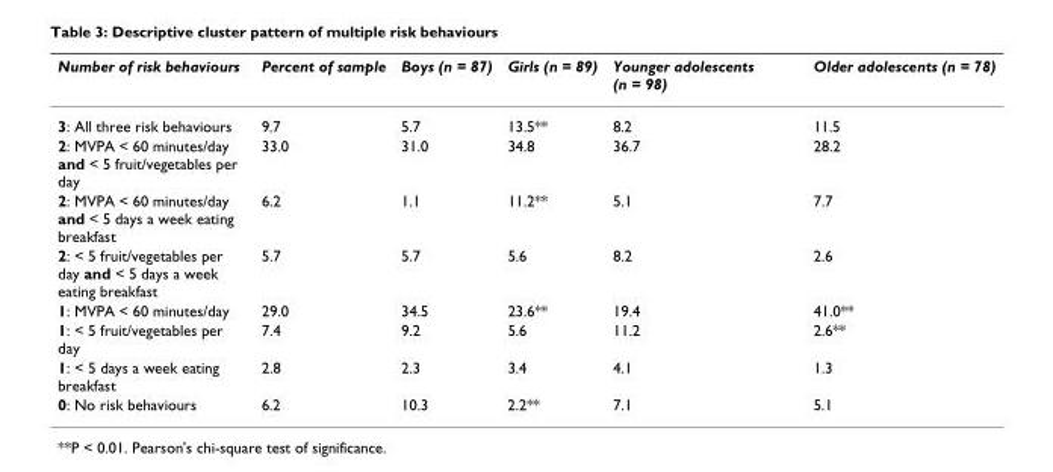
<table><thead><tr><td>Number of risk behaviours</td><td>Percent of sample</td><td>Boys (n = 87)</td><td>Girls (n = 89)</td><td>Younger adolescents (n = 98)</td><td>Older adolescents (n = 78)</td></tr></thead><tbody><tr><td>3: All three risk behaviours</td><td>9.7</td><td>5.7</td><td>13.5**</td><td>8.2</td><td>11.5</td></tr><tr><td>2: MVPA &lt; 60 minutes/day and &lt; 5 fruit/vegetables per day</td><td>33.0</td><td>31.0</td><td>34.8</td><td>36.7</td><td>28.2</td></tr><tr><td>2: MVPA &lt; 60 minutes/day and &lt; 5 days a week eating breakfast</td><td>6.2</td><td>1.1</td><td>11.2**</td><td>5.1</td><td>7.7</td></tr><tr><td>2: &lt; 5 fruit/vegetables per day and &lt; 5 days a week eating breakfast</td><td>5.7</td><td>5.7</td><td>5.6</td><td>8.2</td><td>2.6</td></tr><tr><td>1: MVPA &lt; 60 minutes/day</td><td>29.0</td><td>34.5</td><td>23.6**</td><td>19.4</td><td>41.0**</td></tr><tr><td>1: &lt; 5 fruit/vegetables per day</td><td>7.4</td><td>9.2</td><td>5.6</td><td>11.2</td><td>2.6**</td></tr><tr><td>1: &lt; 5 days a week eating breakfast</td><td>2.8</td><td>2.3</td><td>3.4</td><td>4.1</td><td>1.3</td></tr><tr><td>0: No risk behaviours</td><td>6.2</td><td>10.3</td><td>2.2**</td><td>7.1</td><td>5.1</td></tr></tbody></table>